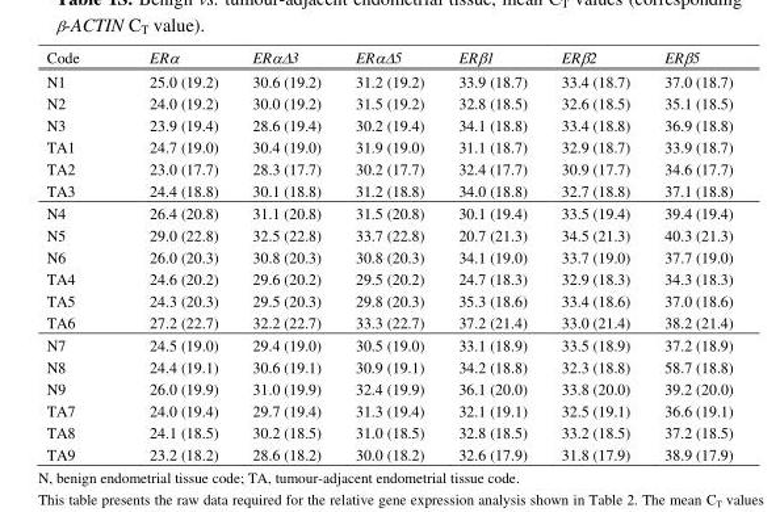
<table><thead><tr><td>Code</td><td>ERα</td><td>ERαΔ3</td><td>ERαΔ5</td><td>ERβ1</td><td>ERβ2</td><td>ERβ5</td></tr></thead><tbody><tr><td>N1</td><td>25.0 (19.2)</td><td>30.6 (19.2)</td><td>31.2 (19.2)</td><td>33.9 (18.7)</td><td>33.4 (18.7)</td><td>37.0 (18.7)</td></tr><tr><td>N2</td><td>24.0 (19.2)</td><td>30.0 (19.2)</td><td>31.5 (19.2)</td><td>32.8 (18.5)</td><td>32.6 (18.5)</td><td>35.1 (18.5)</td></tr><tr><td>N3</td><td>23.9 (19.4)</td><td>28.6 (19.4)</td><td>30.2 (19.4)</td><td>34.1 (18.8)</td><td>33.4 (18.8)</td><td>36.9 (18.8)</td></tr><tr><td>TA1</td><td>24.7 (19.0)</td><td>30.4 (19.0)</td><td>31.9 (19.0)</td><td>31.1 (18.7)</td><td>32.9 (18.7)</td><td>33.9 (18.7)</td></tr><tr><td>TA2</td><td>23.0 (17.7)</td><td>28.3 (17.7)</td><td>30.2 (17.7)</td><td>32.4 (17.7)</td><td>30.9 (17.7)</td><td>34.6 (17.7)</td></tr><tr><td>TA3</td><td>24.4 (18.8)</td><td>30.1 (18.8)</td><td>31.2 (18.8)</td><td>34.0 (18.8)</td><td>32.7 (18.8)</td><td>37.1 (18.8)</td></tr><tr><td>N4</td><td>26.4 (20.8)</td><td>31.1 (20.8)</td><td>31.5 (20.8)</td><td>30.1 (19.4)</td><td>33.5 (19.4)</td><td>39.4 (19.4)</td></tr><tr><td>N5</td><td>29.0 (22.8)</td><td>32.5 (22.8)</td><td>33.7 (22.8)</td><td>20.7 (21.3)</td><td>34.5 (21.3)</td><td>40.3 (21.3)</td></tr><tr><td>N6</td><td>26.0 (20.3)</td><td>30.8 (20.3)</td><td>30.8 (20.3)</td><td>34.1 (19.0)</td><td>33.7 (19.0)</td><td>37.7 (19.0)</td></tr><tr><td>TA4</td><td>24.6 (20.2)</td><td>29.6 (20.2)</td><td>29.5 (20.2)</td><td>24.7 (18.3)</td><td>32.9 (18.3)</td><td>34.3 (18.3)</td></tr><tr><td>TA5</td><td>24.3 (20.3)</td><td>29.5 (20.3)</td><td>29.8 (20.3)</td><td>35.3 (18.6)</td><td>33.4 (18.6)</td><td>37.0 (18.6)</td></tr><tr><td>TA6</td><td>27.2 (22.7)</td><td>32.2 (22.7)</td><td>33.3 (22.7)</td><td>37.2 (21.4)</td><td>33.0 (21.4)</td><td>38.2 (21.4)</td></tr><tr><td>N7</td><td>24.5 (19.0)</td><td>29.4 (19.0)</td><td>30.5 (19.0)</td><td>33.1 (18.9)</td><td>33.5 (18.9)</td><td>37.2 (18.9)</td></tr><tr><td>N8</td><td>24.4 (19.1)</td><td>30.6 (19.1)</td><td>30.9 (19.1)</td><td>34.2 (18.8)</td><td>32.3 (18.8)</td><td>58.7 (18.8)</td></tr><tr><td>N9</td><td>26.0 (19.9)</td><td>31.0 (19.9)</td><td>32.4 (19.9)</td><td>36.1 (20.0)</td><td>33.8 (20.0)</td><td>39.2 (20.0)</td></tr><tr><td>TA7</td><td>24.0 (19.4)</td><td>29.7 (19.4)</td><td>31.3 (19.4)</td><td>32.1 (19.1)</td><td>32.5 (19.1)</td><td>36.6 (19.1)</td></tr><tr><td>TA8</td><td>24.1 (18.5)</td><td>30.2 (18.5)</td><td>31.0 (18.5)</td><td>32.8 (18.5)</td><td>33.2 (18.5)</td><td>37.2 (18.5)</td></tr><tr><td>TA9</td><td>23.2 (18.2)</td><td>28.6 (18.2)</td><td>30.0 (18.2)</td><td>32.6 (17.9)</td><td>31.8 (17.9)</td><td>38.9 (17.9)</td></tr></tbody></table>